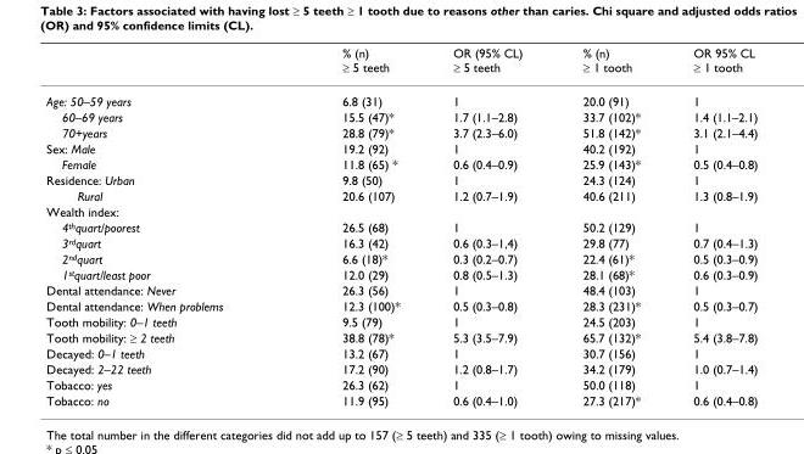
<table><thead><tr><td></td><td>% (n) ≥ 5 teeth</td><td>OR (95% CL) ≥ 5 teeth</td><td>% (n) ≥ 1 tooth</td><td>OR 95% CL ≥ 1 tooth</td></tr></thead><tbody><tr><td>Age: 50–59 years</td><td>6.8 (31)</td><td>1</td><td>20.0 (91)</td><td>1</td></tr><tr><td>60–69 years</td><td>15.5 (47)*</td><td>1.7 (1.1–2.8)</td><td>33.7 (102)*</td><td>1.4 (1.1–2.1)</td></tr><tr><td>70+years</td><td>28.8 (79)*</td><td>3.7 (2.3–6.0)</td><td>51.8 (142)*</td><td>3.1 (2.1–4.4)</td></tr><tr><td>Sex: Male</td><td>19.2 (92)</td><td>1</td><td>40.2 (192)</td><td>1</td></tr><tr><td>Female</td><td>11.8 (65) *</td><td>0.6 (0.4–0.9)</td><td>25.9 (143)*</td><td>0.5 (0.4–0.8)</td></tr><tr><td>Residence: Urban</td><td>9.8 (50)</td><td>1</td><td>24.3 (124)</td><td>1</td></tr><tr><td>Rural</td><td>20.6 (107)</td><td>1.2 (0.7–1.9)</td><td>40.6 (211)</td><td>1.3 (0.8–1.9)</td></tr><tr><td colspan="5">Wealth index:</td></tr><tr><td>4<sup>th</sup>quart/poorest</td><td>26.5 (68)</td><td>1</td><td>50.2 (129)</td><td>1</td></tr><tr><td>3<sup>rd</sup>quart</td><td>16.3 (42)</td><td>0.6 (0.3–1,4)</td><td>29.8 (77)</td><td>0.7 (0.4–1.3)</td></tr><tr><td>2<sup>nd</sup>quart</td><td>6.6 (18)*</td><td>0.3 (0.2–0.7)</td><td>22.4 (61)*</td><td>0.5 (0.3–0.9)</td></tr><tr><td>1<sup>st</sup>quart/least poor</td><td>12.0 (29)</td><td>0.8 (0.5–1.3)</td><td>28.1 (68)*</td><td>0.6 (0.3–0.9)</td></tr><tr><td>Dental attendance: Never</td><td>26.3 (56)</td><td>1</td><td>48.4 (103)</td><td>1</td></tr><tr><td>Dental attendance: When problems</td><td>12.3 (100)*</td><td>0.5 (0.3–0.8)</td><td>28.3 (231)*</td><td>0.5 (0.3–0.7)</td></tr><tr><td>Tooth mobility: 0–1 teeth</td><td>9.5 (79)</td><td>1</td><td>24.5 (203)</td><td>1</td></tr><tr><td>Tooth mobility: ≥ 2 teeth</td><td>38.8 (78)*</td><td>5.3 (3.5–7.9)</td><td>65.7 (132)*</td><td>5.4 (3.8–7.8)</td></tr><tr><td>Decayed: 0–1 teeth</td><td>13.2 (67)</td><td>1</td><td>30.7 (156)</td><td>1</td></tr><tr><td>Decayed: 2–22 teeth</td><td>17.2 (90)</td><td>1.2 (0.8–1.7)</td><td>34.2 (179)</td><td>1.0 (0.7–1.4)</td></tr><tr><td>Tobacco: yes</td><td>26.3 (62)</td><td>1</td><td>50.0 (118)</td><td>1</td></tr><tr><td>Tobacco: no</td><td>11.9 (95)</td><td>0.6 (0.4–1.0)</td><td>27.3 (217)*</td><td>0.6 (0.4–0.8)</td></tr></tbody></table>